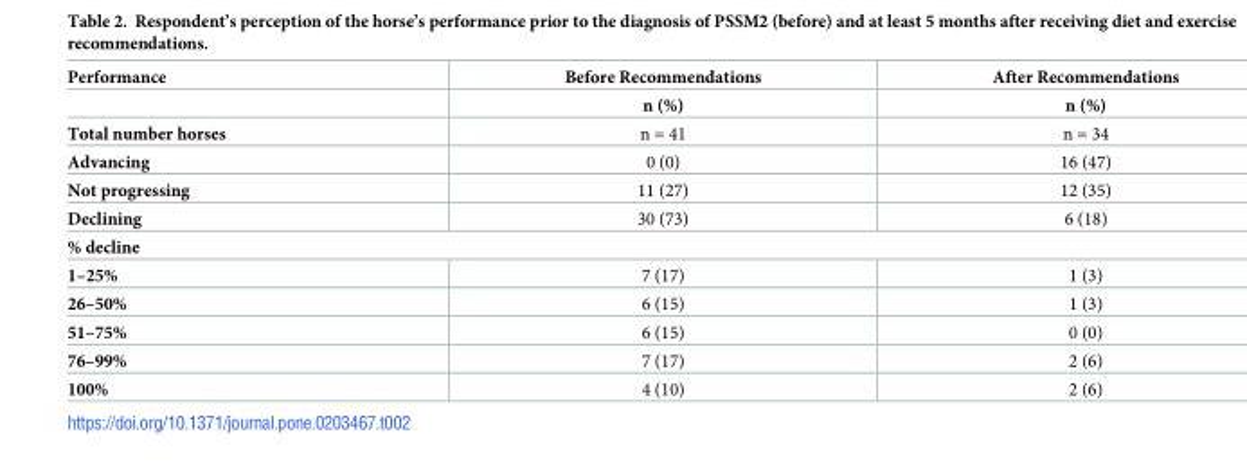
<table><thead><tr><td rowspan="2">Performance</td><td rowspan="2">Before Recommendations n (%)</td><td rowspan="2">After Recommendations n (%)</td></tr><tr></tr></thead><tbody><tr><td>Total number horses</td><td>n = 41</td><td>n = 34</td></tr><tr><td>Advancing</td><td>0 (0)</td><td>16 (47)</td></tr><tr><td>Not progressing</td><td>11 (27)</td><td>12 (35)</td></tr><tr><td>Declining</td><td>30 (73)</td><td>6 (18)</td></tr><tr><td colspan="3">% decline</td></tr><tr><td>1–25%</td><td>7 (17)</td><td>1 (3)</td></tr><tr><td>26–50%</td><td>6 (15)</td><td>1 (3)</td></tr><tr><td>51–75%</td><td>6 (15)</td><td>0 (0)</td></tr><tr><td>76–99%</td><td>7 (17)</td><td>2 (6)</td></tr><tr><td>100%</td><td>4 (10)</td><td>2 (6)</td></tr></tbody></table>